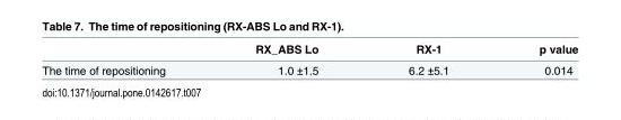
<table><thead><tr><td></td><td>RX_ABS Lo</td><td>RX-1</td><td>p value</td></tr></thead><tbody><tr><td>The time of repositioning</td><td>1.0 ±1.5</td><td>6.2 ±5.1</td><td>0.014</td></tr></tbody></table>